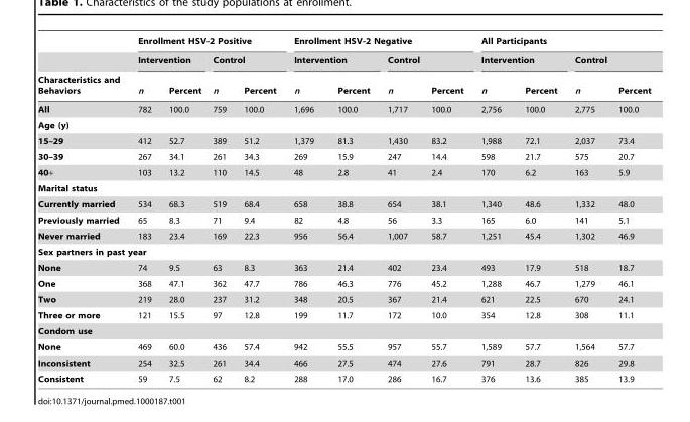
<table><thead><tr><td rowspan="3">Characteristics and Behaviors</td><td colspan="4">Enrollment HSV-2 Positive</td><td colspan="4">Enrollment HSV-2 Negative</td><td colspan="4">All Participants</td></tr><tr><td colspan="2">Intervention</td><td colspan="2">Control</td><td colspan="2">Intervention</td><td colspan="2">Control</td><td colspan="2">Intervention</td><td colspan="2">Control</td></tr><tr><td>n</td><td>Percent</td><td>n</td><td>Percent</td><td>n</td><td>Percent</td><td>n</td><td>Percent</td><td>n</td><td>Percent</td><td>n</td><td>Percent</td></tr></thead><tbody><tr><td>All</td><td>782</td><td>100.0</td><td>759</td><td>100.0</td><td>1,696</td><td>100.0</td><td>1,717</td><td>100.0</td><td>2,756</td><td>100.0</td><td>2,775</td><td>100.0</td></tr><tr><td colspan="13">Age (y)</td></tr><tr><td>15–29</td><td>412</td><td>52.7</td><td>389</td><td>51.2</td><td>1,379</td><td>81.3</td><td>1,430</td><td>83.2</td><td>1,988</td><td>72.1</td><td>2,037</td><td>73.4</td></tr><tr><td>30–39</td><td>267</td><td>34.1</td><td>261</td><td>34.3</td><td>269</td><td>15.9</td><td>247</td><td>14.4</td><td>598</td><td>21.7</td><td>575</td><td>20.7</td></tr><tr><td>40+</td><td>103</td><td>13.2</td><td>110</td><td>14.5</td><td>48</td><td>2.8</td><td>41</td><td>2.4</td><td>170</td><td>6.2</td><td>163</td><td>5.9</td></tr><tr><td colspan="13">Marital status</td></tr><tr><td>Currently married</td><td>534</td><td>68.3</td><td>519</td><td>68.4</td><td>658</td><td>38.8</td><td>654</td><td>38.1</td><td>1,340</td><td>48.6</td><td>1,332</td><td>48.0</td></tr><tr><td>Previously married</td><td>65</td><td>8.3</td><td>71</td><td>9.4</td><td>82</td><td>4.8</td><td>56</td><td>3.3</td><td>165</td><td>6.0</td><td>141</td><td>5.1</td></tr><tr><td>Never married</td><td>183</td><td>23.4</td><td>169</td><td>22.3</td><td>956</td><td>56.4</td><td>1,007</td><td>58.7</td><td>1,251</td><td>45.4</td><td>1,302</td><td>46.9</td></tr><tr><td colspan="13">Sex partners in past year</td></tr><tr><td>None</td><td>74</td><td>9.5</td><td>63</td><td>8.3</td><td>363</td><td>21.4</td><td>402</td><td>23.4</td><td>493</td><td>17.9</td><td>518</td><td>18.7</td></tr><tr><td>One</td><td>368</td><td>47.1</td><td>362</td><td>47.7</td><td>786</td><td>46.3</td><td>776</td><td>45.2</td><td>1,288</td><td>46.7</td><td>1,279</td><td>46.1</td></tr><tr><td>Two</td><td>219</td><td>28.0</td><td>237</td><td>31.2</td><td>348</td><td>20.5</td><td>367</td><td>21.4</td><td>621</td><td>22.5</td><td>670</td><td>24.1</td></tr><tr><td>Three or more</td><td>121</td><td>15.5</td><td>97</td><td>12.8</td><td>199</td><td>11.7</td><td>172</td><td>10.0</td><td>354</td><td>12.8</td><td>308</td><td>11.1</td></tr><tr><td colspan="13">Condom use</td></tr><tr><td>None</td><td>469</td><td>60.0</td><td>436</td><td>57.4</td><td>942</td><td>55.5</td><td>957</td><td>55.7</td><td>1,589</td><td>57.7</td><td>1,564</td><td>57.7</td></tr><tr><td>Inconsistent</td><td>254</td><td>32.5</td><td>261</td><td>34.4</td><td>466</td><td>27.5</td><td>474</td><td>27.6</td><td>791</td><td>28.7</td><td>826</td><td>29.8</td></tr><tr><td>Consistent</td><td>59</td><td>7.5</td><td>62</td><td>8.2</td><td>288</td><td>17.0</td><td>286</td><td>16.7</td><td>376</td><td>13.6</td><td>385</td><td>13.9</td></tr></tbody></table>